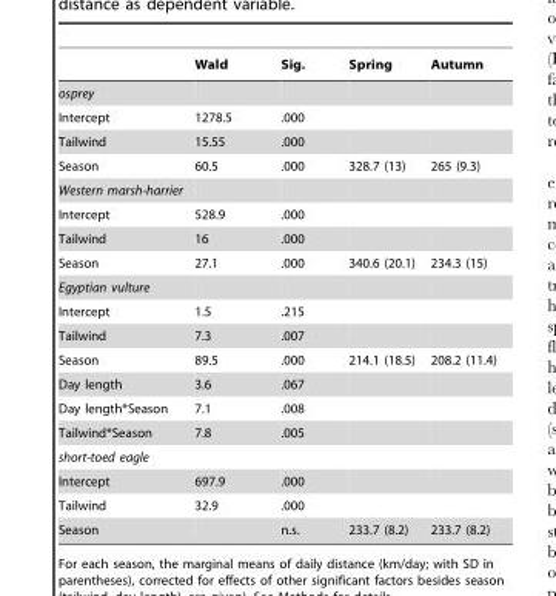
<table><thead><tr><td></td><td>Wald</td><td>Sig.</td><td>Spring</td><td>Autumn</td></tr></thead><tbody><tr><td colspan="5">osprey</td></tr><tr><td>Intercept</td><td>1278.5</td><td>.000</td><td></td><td></td></tr><tr><td>Tailwind</td><td>15.55</td><td>.000</td><td></td><td></td></tr><tr><td>Season</td><td>60.5</td><td>.000</td><td>328.7 (13)</td><td>265 (9.3)</td></tr><tr><td colspan="5">Western marsh-harrier</td></tr><tr><td>Intercept</td><td>528.9</td><td>.000</td><td></td><td></td></tr><tr><td>Tailwind</td><td>16</td><td>.000</td><td></td><td></td></tr><tr><td>Season</td><td>27.1</td><td>.000</td><td>340.6 (20.1)</td><td>234.3 (15)</td></tr><tr><td colspan="5">Egyptian vulture</td></tr><tr><td>Intercept</td><td>1.5</td><td>.215</td><td></td><td></td></tr><tr><td>Tailwind</td><td>7.3</td><td>.007</td><td></td><td></td></tr><tr><td>Season</td><td>89.5</td><td>.000</td><td>214.1 (18.5)</td><td>208.2 (11.4)</td></tr><tr><td>Day length</td><td>3.6</td><td>.067</td><td></td><td></td></tr><tr><td>Day length*Season</td><td>7.1</td><td>.008</td><td></td><td></td></tr><tr><td>Tailwind*Season</td><td>7.8</td><td>.005</td><td></td><td></td></tr><tr><td colspan="5">short-toed eagle</td></tr><tr><td>Intercept</td><td>697.9</td><td>.000</td><td></td><td></td></tr><tr><td>Tailwind</td><td>32.9</td><td>.000</td><td></td><td></td></tr><tr><td>Season</td><td></td><td>n.s.</td><td>233.7 (8.2)</td><td>233.7 (8.2)</td></tr></tbody></table>